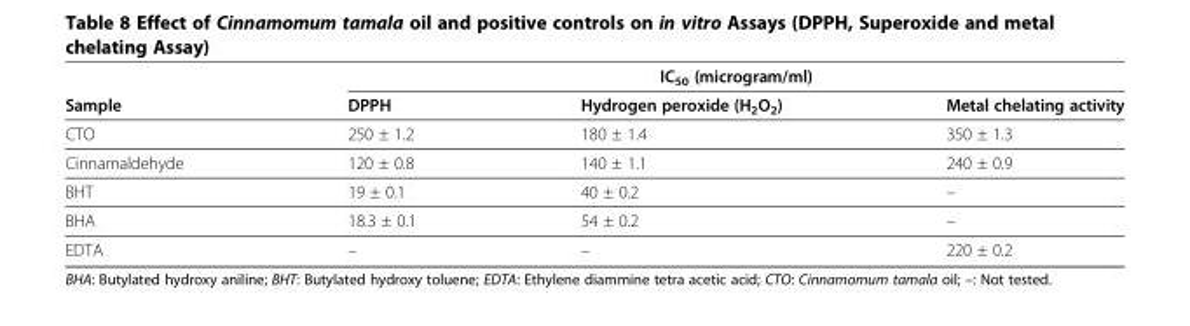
<table><thead><tr><td rowspan="2">Sample</td><td colspan="3">IC<sub>50</sub> (microgram/ml)</td></tr><tr><td>DPPH</td><td>Hydrogen peroxide (H<sub>2</sub>O<sub>2</sub>)</td><td>Metal chelating activity</td></tr></thead><tbody><tr><td>CTO</td><td>250 ± 1.2</td><td>180 ± 1.4</td><td>350 ± 1.3</td></tr><tr><td>Cinnamaldehyde</td><td>120 ± 0.8</td><td>140 ± 1.1</td><td>240 ± 0.9</td></tr><tr><td>BHT</td><td>19 ± 0.1</td><td>40 ± 0.2</td><td>–</td></tr><tr><td>BHA</td><td>18.3 ± 0.1</td><td>54 ± 0.2</td><td>–</td></tr><tr><td>EDTA</td><td>–</td><td>–</td><td>220 ± 0.2</td></tr></tbody></table>